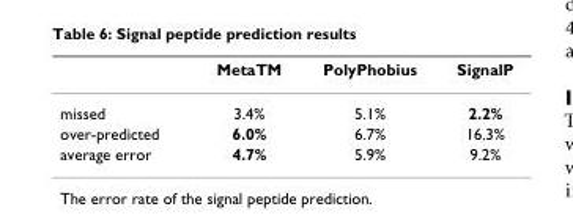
<table><thead><tr><td></td><td>MetaTM</td><td>PolyPhobius</td><td>SignalP</td></tr></thead><tbody><tr><td>missed</td><td>3.4%</td><td>5.1%</td><td>2.2%</td></tr><tr><td>over-predicted</td><td>6.0%</td><td>6.7%</td><td>16.3%</td></tr><tr><td>average error</td><td>4.7%</td><td>5.9%</td><td>9.2%</td></tr></tbody></table>